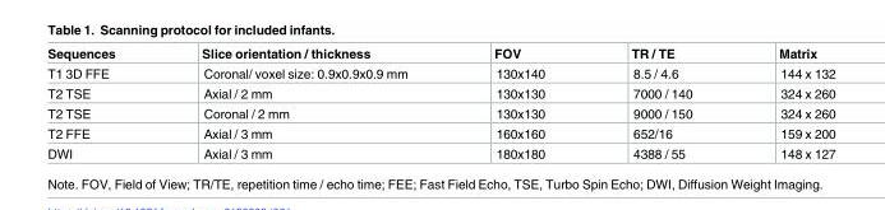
<table><thead><tr><td>Sequences</td><td>Slice orientation / thickness</td><td>FOV</td><td>TR / TE</td><td>Matrix</td></tr></thead><tbody><tr><td>T1 3D FFE</td><td>Coronal/ voxel size: 0.9x0.9x0.9 mm</td><td>130x140</td><td>8.5 / 4.6</td><td>144 x 132</td></tr><tr><td>T2 TSE</td><td>Axial / 2 mm</td><td>130x130</td><td>7000 / 140</td><td>324 x 260</td></tr><tr><td>T2 TSE</td><td>Coronal / 2 mm</td><td>130x130</td><td>9000 / 150</td><td>324 x 260</td></tr><tr><td>T2 FFE</td><td>Axial / 3 mm</td><td>160x160</td><td>652/16</td><td>159 x 200</td></tr><tr><td>DWI</td><td>Axial / 3 mm</td><td>180x180</td><td>4388 / 55</td><td>148 x 127</td></tr></tbody></table>